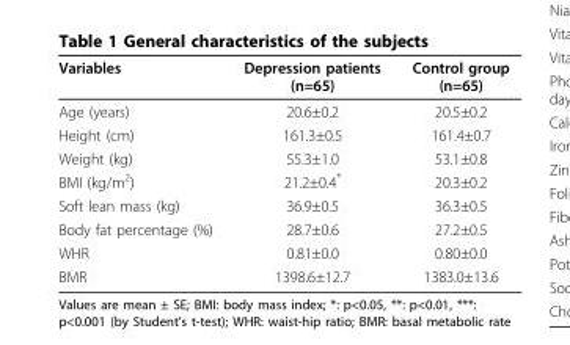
<table><thead><tr><td>Variables</td><td>Depression patients (n=65)</td><td>Control group (n=65)</td></tr></thead><tbody><tr><td>Age (years)</td><td>20.6±0.2</td><td>20.5±0.2</td></tr><tr><td>Height (cm)</td><td>161.3±0.5</td><td>161.4±0.7</td></tr><tr><td>Weight (kg)</td><td>55.3±1.0</td><td>53.1±0.8</td></tr><tr><td>BMI (kg/m<sup>2</sup>)</td><td>21.2±0.4*</td><td>20.3±0.2</td></tr><tr><td>Soft lean mass (kg)</td><td>36.9±0.5</td><td>36.3±0.5</td></tr><tr><td>Body fat percentage (%)</td><td>28.7±0.6</td><td>27.2±0.5</td></tr><tr><td>WHR</td><td>0.81±0.0</td><td>0.80±0.0</td></tr><tr><td>BMR</td><td>1398.6±12.7</td><td>1383.0±13.6</td></tr></tbody></table>